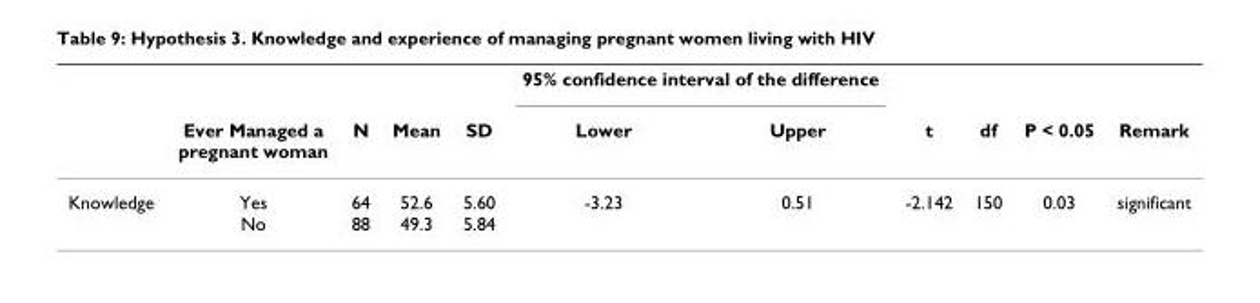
<table><thead><tr><td rowspan="2"></td><td rowspan="2">Ever Managed a pregnant woman</td><td rowspan="2">N</td><td rowspan="2">Mean</td><td rowspan="2">SD</td><td colspan="2">95% confidence interval of the difference</td><td rowspan="2">t</td><td rowspan="2">df</td><td rowspan="2">P &lt; 0.05</td><td rowspan="2">Remark</td></tr><tr><td>Lower</td><td>Upper</td></tr></thead><tbody><tr><td>Knowledge</td><td>Yes No</td><td>64 88</td><td>52.6 49.3</td><td>5.60 5.84</td><td>-3.23</td><td>0.51</td><td>-2.142</td><td>150</td><td>0.03</td><td>significant</td></tr></tbody></table>